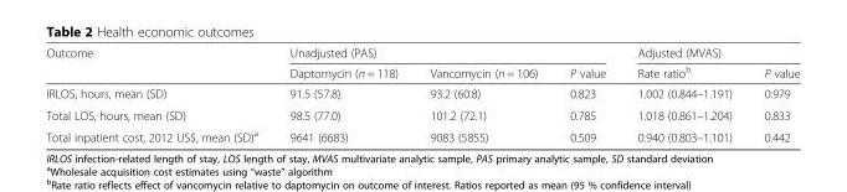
<table><thead><tr><td rowspan="2">Outcome</td><td colspan="3">Unadjusted (PAS)</td><td colspan="2">Adjusted (MVAS)</td></tr><tr><td>Daptomycin (n = 118)</td><td>Vancomycin (n = 106)</td><td>P value</td><td>Rate ratio<sup>b</sup></td><td>P value</td></tr></thead><tbody><tr><td>IRLOS, hours, mean (SD)</td><td>91.5 (57.8)</td><td>93.2 (60.8)</td><td>0.823</td><td>1.002 (0.844–1.191)</td><td>0.979</td></tr><tr><td>Total LOS, hours, mean (SD)</td><td>98.5 (77.0)</td><td>101.2 (72.1)</td><td>0.785</td><td>1.018 (0.861–1.204)</td><td>0.833</td></tr><tr><td>Total inpatient cost, 2012 US$, mean (SD)<sup>a</sup></td><td>9641 (6683)</td><td>9083 (5855)</td><td>0.509</td><td>0.940 (0.803–1.101)</td><td>0.442</td></tr></tbody></table>